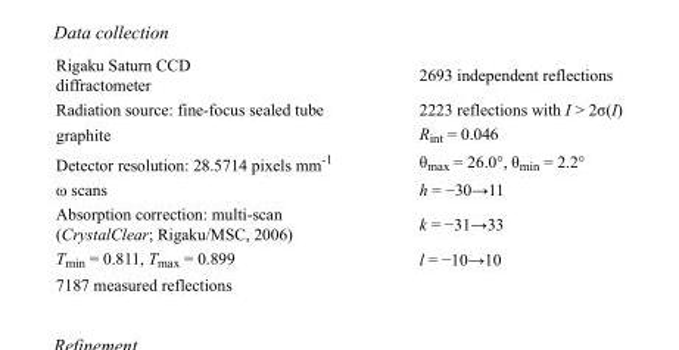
<table><tbody><tr><td>Rigaku Saturn CCD diffractometer</td><td>2693 independent reflections</td></tr><tr><td>Radiation source: fine-focus sealed tube</td><td>2223 reflections with I &gt; 2σ(I)</td></tr><tr><td>graphite</td><td>R<sub>int</sub> = 0.046</td></tr><tr><td>Detector resolution: 28.5714 pixels mm<sup>-1</sup></td><td>θ<sub>max</sub> = 26.0°, θ<sub>min</sub> = 2.2°</td></tr><tr><td>ω scans</td><td>h = −30→11</td></tr><tr><td>Absorption correction: multi-scan (CrystalClear; Rigaku/MSC, 2006)</td><td>k = −31→33</td></tr><tr><td>T<sub>min</sub> = 0.811, T<sub>max</sub> = 0.899</td><td>l = −10→10</td></tr><tr><td>7187 measured reflections</td><td></td></tr></tbody></table>